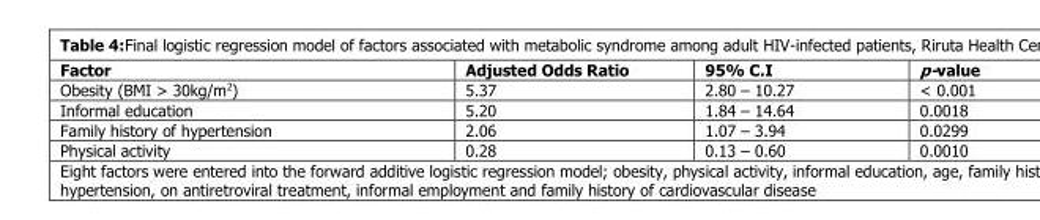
<table><thead><tr><td>Factor</td><td>Adjusted Odds Ratio</td><td>95% C.I</td><td>p-value</td></tr></thead><tbody><tr><td>Obesity (BMI &gt; 30kg/m<sup>2</sup>)</td><td>5.37</td><td>2.80 – 10.27</td><td>&lt; 0.001</td></tr><tr><td>Informal education</td><td>5.20</td><td>1.84 – 14.64</td><td>0.0018</td></tr><tr><td>Family history of hypertension</td><td>2.06</td><td>1.07 – 3.94</td><td>0.0299</td></tr><tr><td>Physical activity</td><td>0.28</td><td>0.13 – 0.60</td><td>0.0010</td></tr></tbody></table>